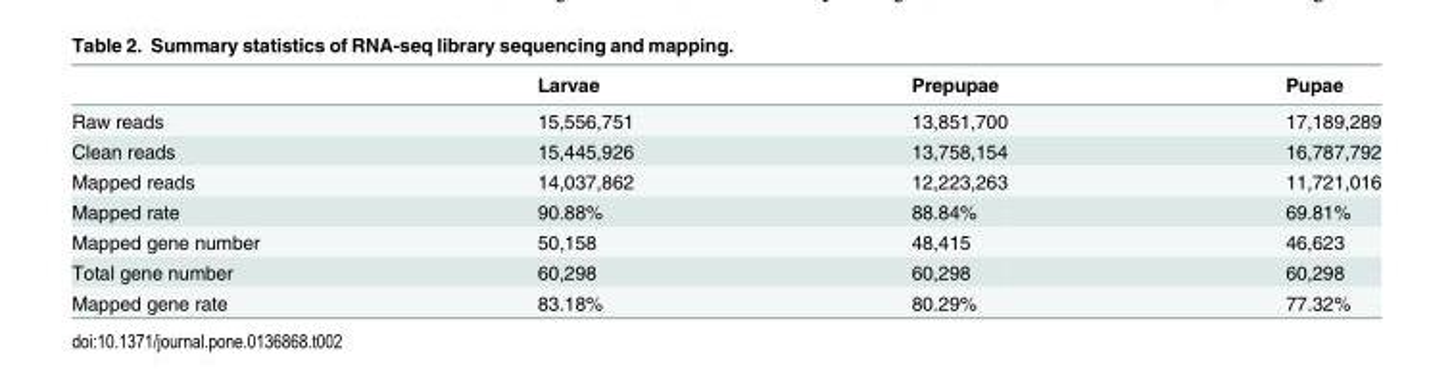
<table><thead><tr><td></td><td>Larvae</td><td>Prepupae</td><td>Pupae</td></tr></thead><tbody><tr><td>Raw reads</td><td>15,556,751</td><td>13,851,700</td><td>17,189,289</td></tr><tr><td>Clean reads</td><td>15,445,926</td><td>13,758,154</td><td>16,787,792</td></tr><tr><td>Mapped reads</td><td>14,037,862</td><td>12,223,263</td><td>11,721,016</td></tr><tr><td>Mapped rate</td><td>90.88%</td><td>88.84%</td><td>69.81%</td></tr><tr><td>Mapped gene number</td><td>50,158</td><td>48,415</td><td>46,623</td></tr><tr><td>Total gene number</td><td>60,298</td><td>60,298</td><td>60,298</td></tr><tr><td>Mapped gene rate</td><td>83.18%</td><td>80.29%</td><td>77.32%</td></tr></tbody></table>